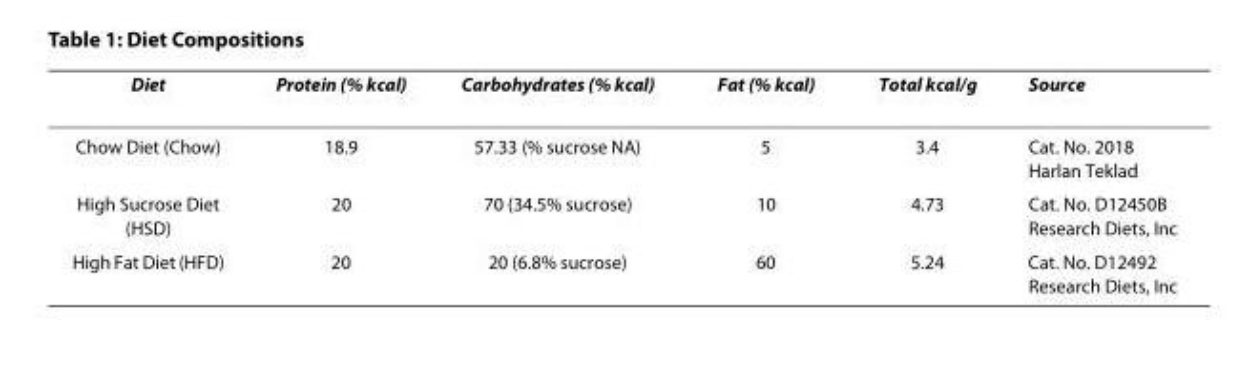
<table><thead><tr><td>Diet</td><td>Protein (% kcal)</td><td>Carbohydrates (% kcal)</td><td>Fat (% kcal)</td><td>Total kcal/g</td><td>Source</td></tr></thead><tbody><tr><td>Chow Diet (Chow)</td><td>18.9</td><td>57.33 (% sucrose NA)</td><td>5</td><td>3.4</td><td>Cat. No. 2018 Harlan Teklad</td></tr><tr><td>High Sucrose Diet (HSD)</td><td>20</td><td>70 (34.5% sucrose)</td><td>10</td><td>4.73</td><td>Cat. No. D12450B Research Diets, Inc</td></tr><tr><td>High Fat Diet (HFD)</td><td>20</td><td>20 (6.8% sucrose)</td><td>60</td><td>5.24</td><td>Cat. No. D12492 Research Diets, Inc</td></tr></tbody></table>